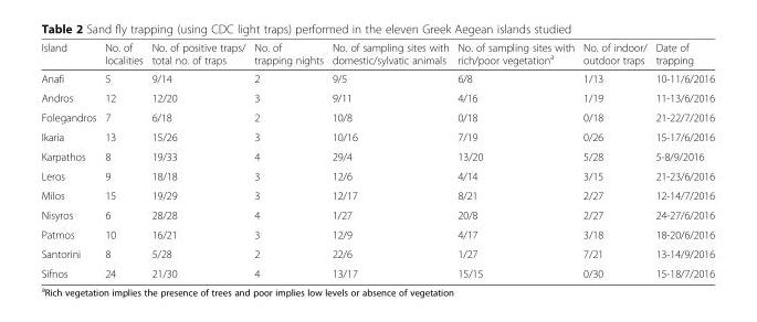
<table><thead><tr><td>Island</td><td>No. of localities</td><td>No. of positive traps/ total no. of traps</td><td>No. of trapping nights</td><td>No. of sampling sites with domestic/sylvatic animals</td><td>No. of sampling sites with rich/poor vegetation<sup>a</sup></td><td>No. of indoor/ outdoor traps</td><td>Date of trapping</td></tr></thead><tbody><tr><td>Anafi</td><td>5</td><td>9/14</td><td>2</td><td>9/5</td><td>6/8</td><td>1/13</td><td>10-11/6/2016</td></tr><tr><td>Andros</td><td>12</td><td>12/20</td><td>3</td><td>9/11</td><td>4/16</td><td>1/19</td><td>11-13/6/2016</td></tr><tr><td>Folegandros</td><td>7</td><td>6/18</td><td>2</td><td>10/8</td><td>0/18</td><td>0/18</td><td>21-22/7/2016</td></tr><tr><td>Ikaria</td><td>13</td><td>15/26</td><td>3</td><td>10/16</td><td>7/19</td><td>0/26</td><td>15-17/6/2016</td></tr><tr><td>Karpathos</td><td>8</td><td>19/33</td><td>4</td><td>29/4</td><td>13/20</td><td>5/28</td><td>5-8/9/2016</td></tr><tr><td>Leros</td><td>9</td><td>18/18</td><td>3</td><td>12/6</td><td>4/14</td><td>3/15</td><td>21-23/6/2016</td></tr><tr><td>Milos</td><td>15</td><td>19/29</td><td>3</td><td>12/17</td><td>8/21</td><td>2/27</td><td>12-14/7/2016</td></tr><tr><td>Nisyros</td><td>6</td><td>28/28</td><td>4</td><td>1/27</td><td>20/8</td><td>2/27</td><td>24-27/6/2016</td></tr><tr><td>Patmos</td><td>10</td><td>16/21</td><td>3</td><td>12/9</td><td>4/17</td><td>3/18</td><td>18-20/6/2016</td></tr><tr><td>Santorini</td><td>8</td><td>5/28</td><td>2</td><td>22/6</td><td>1/27</td><td>7/21</td><td>13-14/9/2016</td></tr><tr><td>Sifnos</td><td>24</td><td>21/30</td><td>4</td><td>13/17</td><td>15/15</td><td>0/30</td><td>15-18/7/2016</td></tr></tbody></table>